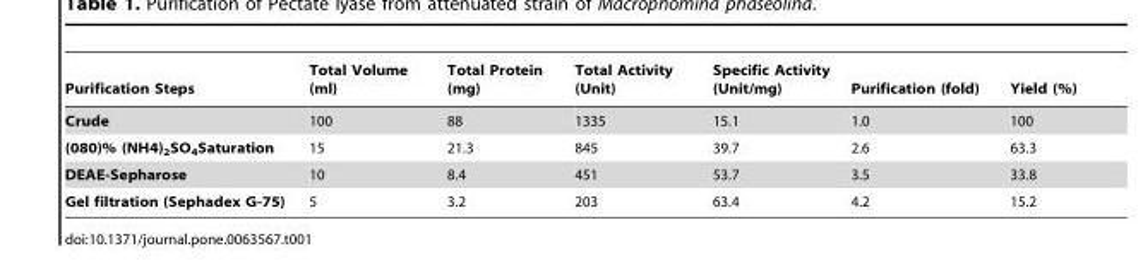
<table><thead><tr><td>Purification Steps</td><td>Total Volume (ml)</td><td>Total Protein (mg)</td><td>Total Activity (Unit)</td><td>Specific Activity (Unit/mg)</td><td>Purification (fold)</td><td>Yield (%)</td></tr></thead><tbody><tr><td>Crude</td><td>100</td><td>88</td><td>1335</td><td>15.1</td><td>1.0</td><td>100</td></tr><tr><td>(080)% (NH4)<sub>2</sub>SO<sub>4</sub>Saturation</td><td>15</td><td>21.3</td><td>845</td><td>39.7</td><td>2.6</td><td>63.3</td></tr><tr><td>DEAE-Sepharose</td><td>10</td><td>8.4</td><td>451</td><td>53.7</td><td>3.5</td><td>33.8</td></tr><tr><td>Gel filtration (Sephadex G-75)</td><td>5</td><td>3.2</td><td>203</td><td>63.4</td><td>4.2</td><td>15.2</td></tr></tbody></table>